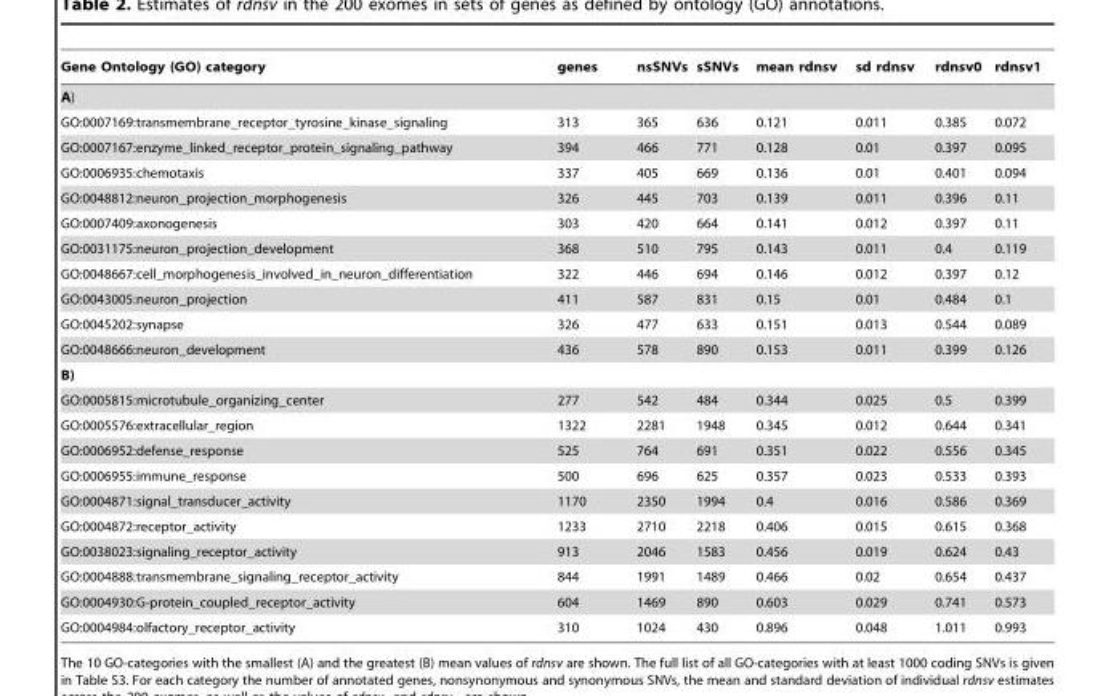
<table><thead><tr><td>Gene Ontology (GO) category</td><td>genes</td><td>nsSNVs</td><td>sSNVs</td><td>mean rdnsv</td><td>sd rdnsv</td><td>rdnsv0</td><td>rdnsv1</td></tr></thead><tbody><tr><td colspan="8">A)</td></tr><tr><td>GO:0007169:transmembrane_receptor_tyrosine_kinase_signaling</td><td>313</td><td>365</td><td>636</td><td>0.121</td><td>0.011</td><td>0.385</td><td>0.072</td></tr><tr><td>GO:0007167:enzyme_linked_receptor_protein_signaling_pathway</td><td>394</td><td>466</td><td>771</td><td>0.128</td><td>0.01</td><td>0.397</td><td>0.095</td></tr><tr><td>GO:0006935:chemotaxis</td><td>337</td><td>405</td><td>669</td><td>0.136</td><td>0.01</td><td>0.401</td><td>0.094</td></tr><tr><td>GO:0048812:neuron_projection_morphogenesis</td><td>326</td><td>445</td><td>703</td><td>0.139</td><td>0.011</td><td>0.396</td><td>0.11</td></tr><tr><td>GO:0007409:axonogenesis</td><td>303</td><td>420</td><td>664</td><td>0.141</td><td>0.012</td><td>0.397</td><td>0.11</td></tr><tr><td>GO:0031175:neuron_projection_development</td><td>368</td><td>510</td><td>795</td><td>0.143</td><td>0.011</td><td>0.4</td><td>0.119</td></tr><tr><td>GO:0048667:cell_morphogenesis_involved_in_neuron_differentiation</td><td>322</td><td>446</td><td>694</td><td>0.146</td><td>0.012</td><td>0.397</td><td>0.12</td></tr><tr><td>GO:0043005:neuron_projection</td><td>411</td><td>587</td><td>831</td><td>0.15</td><td>0.01</td><td>0.484</td><td>0.1</td></tr><tr><td>GO:0045202:synapse</td><td>326</td><td>477</td><td>633</td><td>0.151</td><td>0.013</td><td>0.544</td><td>0.089</td></tr><tr><td>GO:0048666:neuron_development</td><td>436</td><td>578</td><td>890</td><td>0.153</td><td>0.011</td><td>0.399</td><td>0.126</td></tr><tr><td colspan="8">B)</td></tr><tr><td>GO:0005815:microtubule_organizing_center</td><td>277</td><td>542</td><td>484</td><td>0.344</td><td>0.025</td><td>0.5</td><td>0.399</td></tr><tr><td>GO:0005576:extracellular_region</td><td>1322</td><td>2281</td><td>1948</td><td>0.345</td><td>0.012</td><td>0.644</td><td>0.341</td></tr><tr><td>GO:0006952:defense_response</td><td>525</td><td>764</td><td>691</td><td>0.351</td><td>0.022</td><td>0.556</td><td>0.345</td></tr><tr><td>GO:0006955:immune_response</td><td>500</td><td>696</td><td>625</td><td>0.357</td><td>0.023</td><td>0.533</td><td>0.393</td></tr><tr><td>GO:0004871:signal_transducer_activity</td><td>1170</td><td>2350</td><td>1994</td><td>0.4</td><td>0.016</td><td>0.586</td><td>0.369</td></tr><tr><td>GO:0004872:receptor_activity</td><td>1233</td><td>2710</td><td>2218</td><td>0.406</td><td>0.015</td><td>0.615</td><td>0.368</td></tr><tr><td>GO:0038023:signaling_receptor_activity</td><td>913</td><td>2046</td><td>1583</td><td>0.456</td><td>0.019</td><td>0.624</td><td>0.43</td></tr><tr><td>GO:0004888:transmembrane_signaling_receptor_activity</td><td>844</td><td>1991</td><td>1489</td><td>0.466</td><td>0.02</td><td>0.654</td><td>0.437</td></tr><tr><td>GO:0004930:G-protein_coupled_receptor_activity</td><td>604</td><td>1469</td><td>890</td><td>0.603</td><td>0.029</td><td>0.741</td><td>0.573</td></tr><tr><td>GO:0004984:olfactory_receptor_activity</td><td>310</td><td>1024</td><td>430</td><td>0.896</td><td>0.048</td><td>1.011</td><td>0.993</td></tr></tbody></table>